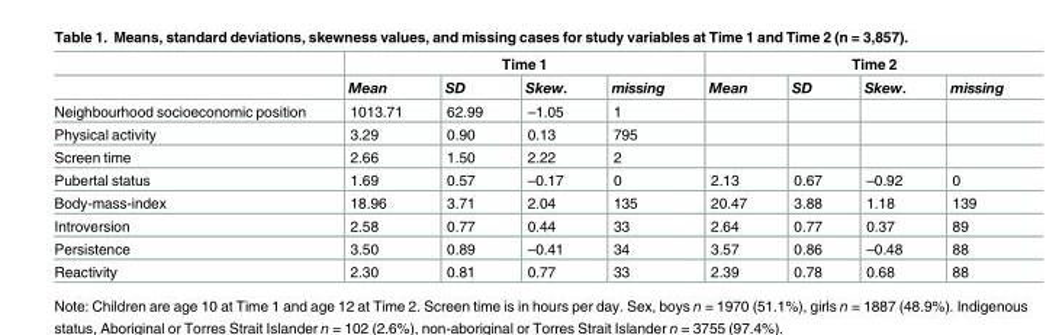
<table><thead><tr><td rowspan="2"></td><td colspan="4">Time 1</td><td colspan="4">Time 2</td></tr><tr><td>Mean</td><td>SD</td><td>Skew.</td><td>missing</td><td>Mean</td><td>SD</td><td>Skew.</td><td>missing</td></tr></thead><tbody><tr><td>Neighbourhood socioeconomic position</td><td>1013.71</td><td>62.99</td><td>–1.05</td><td>1</td><td></td><td></td><td></td><td></td></tr><tr><td>Physical activity</td><td>3.29</td><td>0.90</td><td>0.13</td><td>795</td><td></td><td></td><td></td><td></td></tr><tr><td>Screen time</td><td>2.66</td><td>1.50</td><td>2.22</td><td>2</td><td></td><td></td><td></td><td></td></tr><tr><td>Pubertal status</td><td>1.69</td><td>0.57</td><td>–0.17</td><td>0</td><td>2.13</td><td>0.67</td><td>–0.92</td><td>0</td></tr><tr><td>Body-mass-index</td><td>18.96</td><td>3.71</td><td>2.04</td><td>135</td><td>20.47</td><td>3.88</td><td>1.18</td><td>139</td></tr><tr><td>Introversion</td><td>2.58</td><td>0.77</td><td>0.44</td><td>33</td><td>2.64</td><td>0.77</td><td>0.37</td><td>89</td></tr><tr><td>Persistence</td><td>3.50</td><td>0.89</td><td>–0.41</td><td>34</td><td>3.57</td><td>0.86</td><td>–0.48</td><td>88</td></tr><tr><td>Reactivity</td><td>2.30</td><td>0.81</td><td>0.77</td><td>33</td><td>2.39</td><td>0.78</td><td>0.68</td><td>88</td></tr></tbody></table>